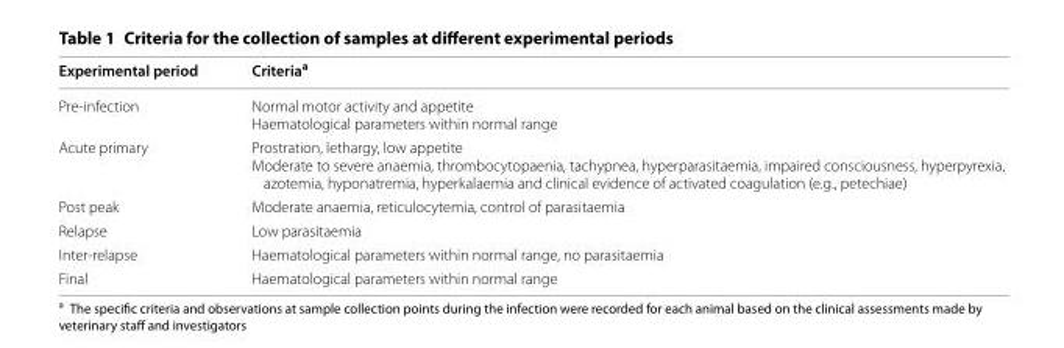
<table><thead><tr><td>Experimental period</td><td>Criteria<sup>a</sup></td></tr></thead><tbody><tr><td>Pre‑infection</td><td>Normal motor activity and appetite Haematological parameters within normal range</td></tr><tr><td>Acute primary</td><td>Prostration, lethargy, low appetite Moderate to severe anaemia, thrombocytopaenia, tachypnea, hyperparasitaemia, impaired consciousness, hyperpyrexia, azotemia, hyponatremia, hyperkalaemia and clinical evidence of activated coagulation (e.g., petechiae)</td></tr><tr><td>Post peak</td><td>Moderate anaemia, reticulocytemia, control of parasitaemia</td></tr><tr><td>Relapse</td><td>Low parasitaemia</td></tr><tr><td>Inter‑relapse</td><td>Haematological parameters within normal range, no parasitaemia</td></tr><tr><td>Final</td><td>Haematological parameters within normal range</td></tr></tbody></table>